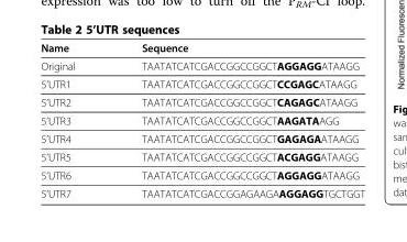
<table><thead><tr><td>Name</td><td>Sequence</td></tr></thead><tbody><tr><td>Original</td><td>TAATATCATCGACCGGCCGGCTAGGAGGATAAGG</td></tr><tr><td>5’UTR1</td><td>TAATATCATCGACCGGCCGGCTCCGAGCATAAGG</td></tr><tr><td>5’UTR2</td><td>TAATATCATCGACCGGCCGGCTCAGAGCATAAGG</td></tr><tr><td>5’UTR3</td><td>TAATATCATCGACCGGCCGGCTAAGATAAGG</td></tr><tr><td>5’UTR4</td><td>TAATATCATCGACCGGCCGGCTGAGAGAATAAGG</td></tr><tr><td>5’UTR5</td><td>TAATATCATCGACCGGCCGGCTACGAGGATAAGG</td></tr><tr><td>5’UTR6</td><td>TAATATCATCGACCGGCCGGCTAGGAGGATAAGG</td></tr><tr><td>5’UTR7</td><td>TAATATCATCGACCGGAGAAGAAGGAGGTGCTGGT</td></tr></tbody></table>